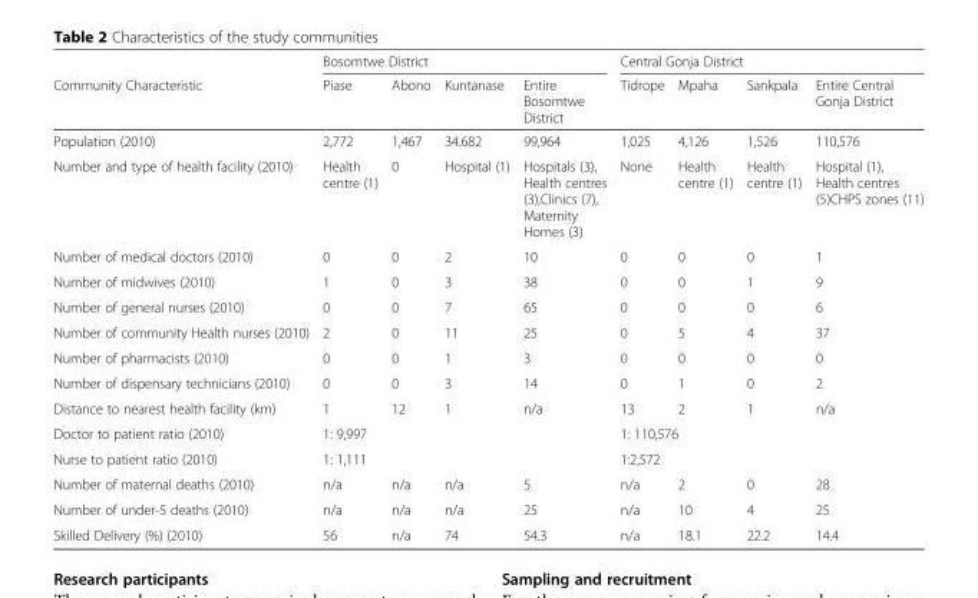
<table><thead><tr><td rowspan="2">Community Characteristic</td><td colspan="4">Bosomtwe District</td><td colspan="4">Central Gonja District</td></tr><tr><td>Piase</td><td>Abono</td><td>Kuntanase</td><td>Entire Bosomtwe District</td><td>Tidrope</td><td>Mpaha</td><td>Sankpala</td><td>Entire Central Gonja District</td></tr></thead><tbody><tr><td>Population (2010)</td><td>2,772</td><td>1,467</td><td>34.682</td><td>99,964</td><td>1,025</td><td>4,126</td><td>1,526</td><td>110,576</td></tr><tr><td>Number and type of health facility (2010)</td><td>Health centre (1)</td><td>0</td><td>Hospital (1)</td><td>Hospitals (3), Health centres (3),Clinics (7), Maternity Homes (3)</td><td>None</td><td>Health centre (1)</td><td>Health centre (1)</td><td>Hospital (1), Health centres (5)CHPS zones (11)</td></tr><tr><td>Number of medical doctors (2010)</td><td>0</td><td>0</td><td>2</td><td>10</td><td>0</td><td>0</td><td>0</td><td>1</td></tr><tr><td>Number of midwives (2010)</td><td>1</td><td>0</td><td>3</td><td>38</td><td>0</td><td>0</td><td>1</td><td>9</td></tr><tr><td>Number of general nurses (2010)</td><td>0</td><td>0</td><td>7</td><td>65</td><td>0</td><td>0</td><td>0</td><td>6</td></tr><tr><td>Number of community Health nurses (2010)</td><td>2</td><td>0</td><td>11</td><td>25</td><td>0</td><td>5</td><td>4</td><td>37</td></tr><tr><td>Number of pharmacists (2010)</td><td>0</td><td>0</td><td>1</td><td>3</td><td>0</td><td>0</td><td>0</td><td>0</td></tr><tr><td>Number of dispensary technicians (2010)</td><td>0</td><td>0</td><td>3</td><td>14</td><td>0</td><td>1</td><td>0</td><td>2</td></tr><tr><td>Distance to nearest health facility (km)</td><td>1</td><td>12</td><td>1</td><td>n/a</td><td>13</td><td>2</td><td>1</td><td>n/a</td></tr><tr><td>Doctor to patient ratio (2010)</td><td colspan="4">1: 9,997</td><td colspan="4">1: 110,576</td></tr><tr><td>Nurse to patient ratio (2010)</td><td colspan="4">1: 1,111</td><td colspan="4">1:2,572</td></tr><tr><td>Number of maternal deaths (2010)</td><td>n/a</td><td>n/a</td><td>n/a</td><td>5</td><td>n/a</td><td>2</td><td>0</td><td>28</td></tr><tr><td>Number of under-5 deaths (2010)</td><td>n/a</td><td>n/a</td><td>n/a</td><td>25</td><td>n/a</td><td>10</td><td>4</td><td>25</td></tr><tr><td>Skilled Delivery (%) (2010)</td><td>56</td><td>n/a</td><td>74</td><td>54.3</td><td>n/a</td><td>18.1</td><td>22.2</td><td>14.4</td></tr></tbody></table>